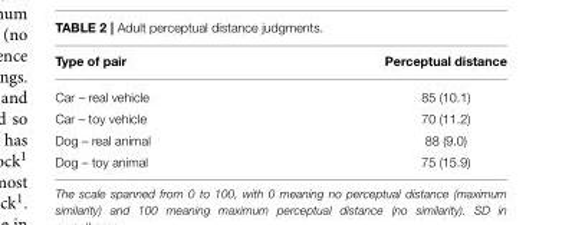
<table><thead><tr><td>Type of pair</td><td>Perceptual distance</td></tr></thead><tbody><tr><td>Car – real vehicle</td><td>85 (10.1)</td></tr><tr><td>Car – toy vehicle</td><td>70 (11.2)</td></tr><tr><td>Dog – real animal</td><td>88 (9.0)</td></tr><tr><td>Dog – toy animal</td><td>75 (15.9)</td></tr></tbody></table>